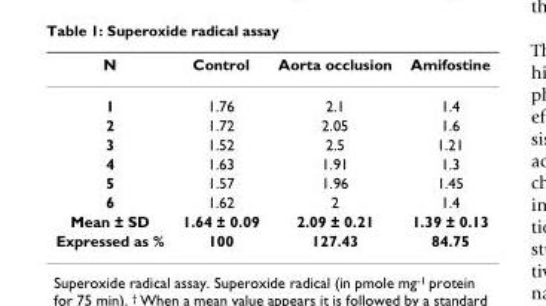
<table><thead><tr><td>N</td><td>Control</td><td>Aorta occlusion</td><td>Amifostine</td></tr></thead><tbody><tr><td>1</td><td>1.76</td><td>2.1</td><td>1.4</td></tr><tr><td>2</td><td>1.72</td><td>2.05</td><td>1.6</td></tr><tr><td>3</td><td>1.52</td><td>2.5</td><td>1.21</td></tr><tr><td>4</td><td>1.63</td><td>1.91</td><td>1.3</td></tr><tr><td>5</td><td>1.57</td><td>1.96</td><td>1.45</td></tr><tr><td>6</td><td>1.62</td><td>2</td><td>1.4</td></tr><tr><td>Mean ± SD</td><td>1.64 ± 0.09</td><td>2.09 ± 0.21</td><td>1.39 ± 0.13</td></tr><tr><td>Expressed as %</td><td>100</td><td>127.43</td><td>84.75</td></tr></tbody></table>